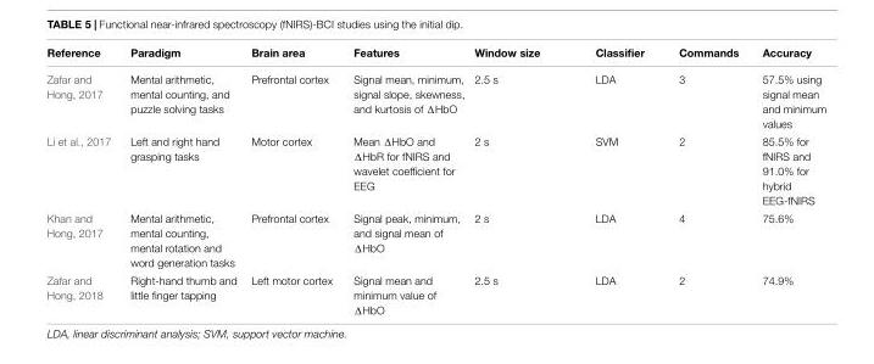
<table><thead><tr><td>Reference</td><td>Paradigm</td><td>Brain area</td><td>Features</td><td>Window size</td><td>Classifier</td><td>Commands</td><td>Accuracy</td></tr></thead><tbody><tr><td>Zafar and Hong, 2017</td><td>Mental arithmetic, mental counting, and puzzle solving tasks</td><td>Prefrontal cortex</td><td>Signal mean, minimum, signal slope, skewness, and kurtosis of ΔHbO</td><td>2.5 s</td><td>LDA</td><td>3</td><td>57.5% using signal mean and minimum values</td></tr><tr><td>Li et al., 2017</td><td>Left and right hand grasping tasks</td><td>Motor cortex</td><td>Mean ΔHbO and ΔHbR for fNIRS and wavelet coefficient for EEG</td><td>2 s</td><td>SVM</td><td>2</td><td>85.5% for fNIRS and 91.0% for hybrid EEG-fNIRS</td></tr><tr><td>Khan and Hong, 2017</td><td>Mental arithmetic, mental counting, mental rotation and word generation tasks</td><td>Prefrontal cortex</td><td>Signal peak, minimum, and signal mean of ΔHbO</td><td>2 s</td><td>LDA</td><td>4</td><td>75.6%</td></tr><tr><td>Zafar and Hong, 2018</td><td>Right-hand thumb and little finger tapping</td><td>Left motor cortex</td><td>Signal mean and minimum value of ΔHbO</td><td>2.5 s</td><td>LDA</td><td>2</td><td>74.9%</td></tr></tbody></table>